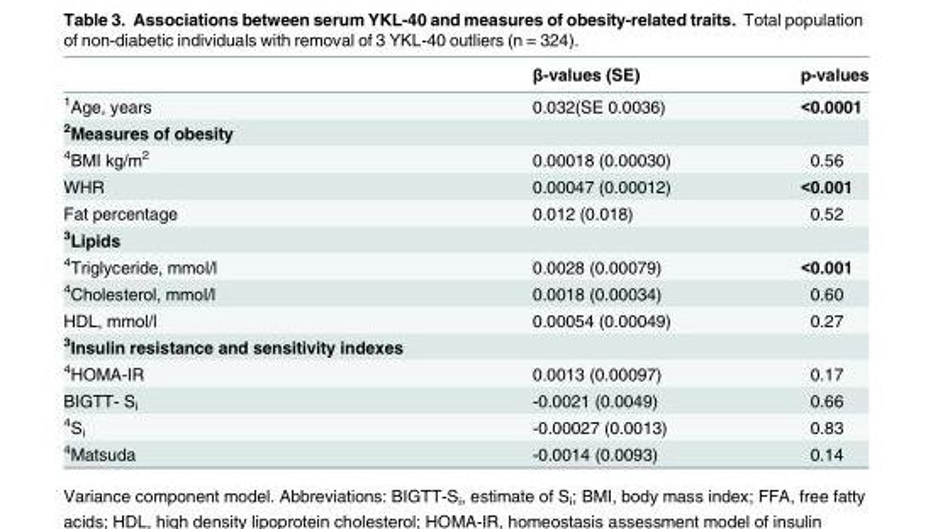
<table><thead><tr><td></td><td>β-values (SE)</td><td>p-values</td></tr></thead><tbody><tr><td><sup>1</sup>Age, years</td><td>0.032(SE 0.0036)</td><td>&lt;0.0001</td></tr><tr><td colspan="3"><sup>2</sup>Measures of obesity</td></tr><tr><td><sup>4</sup>BMI kg/m<sup>2</sup></td><td>0.00018 (0.00030)</td><td>0.56</td></tr><tr><td>WHR</td><td>0.00047 (0.00012)</td><td>&lt;0.001</td></tr><tr><td>Fat percentage</td><td>0.012 (0.018)</td><td>0.52</td></tr><tr><td colspan="3"><sup>3</sup>Lipids</td></tr><tr><td><sup>4</sup>Triglyceride, mmol/l</td><td>0.0028 (0.00079)</td><td>&lt;0.001</td></tr><tr><td><sup>4</sup>Cholesterol, mmol/l</td><td>0.0018 (0.00034)</td><td>0.60</td></tr><tr><td>HDL, mmol/l</td><td>0.00054 (0.00049)</td><td>0.27</td></tr><tr><td colspan="3"><sup>3</sup>Insulin resistance and sensitivity indexes</td></tr><tr><td><sup>4</sup>HOMA-IR</td><td>0.0013 (0.00097)</td><td>0.17</td></tr><tr><td>BIGTT- S<sub>i</sub></td><td>-0.0021 (0.0049)</td><td>0.66</td></tr><tr><td><sup>4</sup>S<sub>i</sub></td><td>-0.00027 (0.0013)</td><td>0.83</td></tr><tr><td><sup>4</sup>Matsuda</td><td>-0.0014 (0.0093)</td><td>0.14</td></tr></tbody></table>